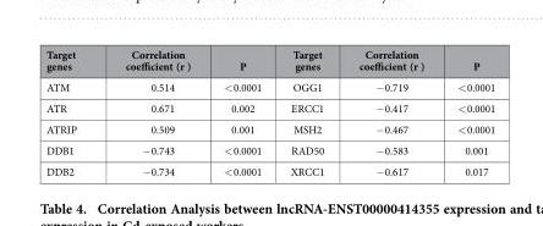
<table><thead><tr><td>Target genes</td><td>Correlation coefficient (r )</td><td>P</td><td>Target genes</td><td>Correlation coefficient (r )</td><td>P</td></tr></thead><tbody><tr><td>ATM</td><td>0.514</td><td>&lt; 0.0001</td><td>OGG1</td><td>− 0.719</td><td>&lt; 0.0001</td></tr><tr><td>ATR</td><td>0.671</td><td>0.002</td><td>ERCC1</td><td>− 0.417</td><td>&lt; 0.0001</td></tr><tr><td>ATRIP</td><td>0.509</td><td>0.001</td><td>MSH2</td><td>− 0.467</td><td>&lt; 0.0001</td></tr><tr><td>DDB1</td><td>− 0.743</td><td>&lt; 0.0001</td><td>RAD50</td><td>− 0.583</td><td>0.001</td></tr><tr><td>DDB2</td><td>− 0.734</td><td>&lt; 0.0001</td><td>XRCC1</td><td>− 0.617</td><td>0.017</td></tr></tbody></table>